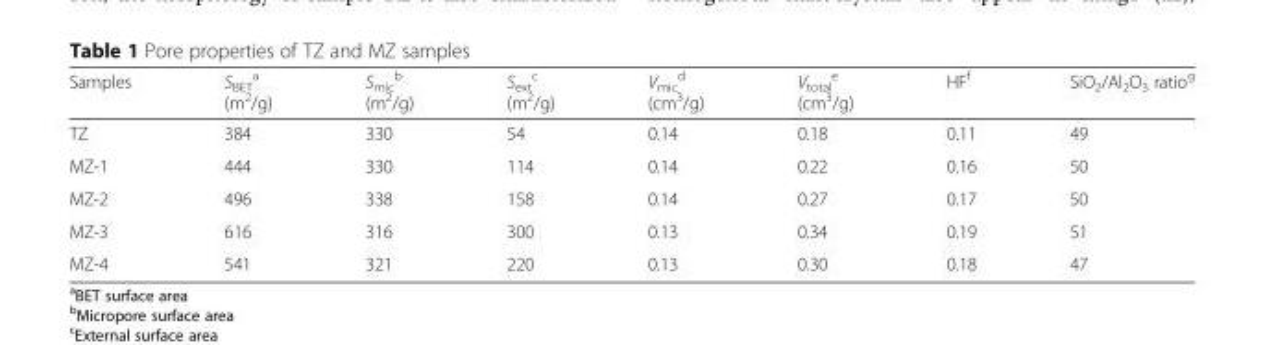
<table><thead><tr><td>Samples</td><td>S<sub>BET</sub> <sup>a</sup> (m<sup>2</sup>/g)</td><td>S<sub>mic</sub> <sup>b</sup> (m<sup>2</sup>/g)</td><td>S<sub>ext</sub> <sup>c</sup> (m<sup>2</sup>/g)</td><td>V<sub>mic</sub> <sup>d</sup> (cm<sup>3</sup>/g)</td><td>V<sub>total</sub> <sup>e</sup> (cm<sup>3</sup>/g)</td><td>HF<sup>f</sup></td><td>SiO<sub>2</sub>/Al<sub>2</sub>O<sub>3</sub> ratio<sup>g</sup></td></tr></thead><tbody><tr><td>TZ</td><td>384</td><td>330</td><td>54</td><td>0.14</td><td>0.18</td><td>0.11</td><td>49</td></tr><tr><td>MZ-1</td><td>444</td><td>330</td><td>114</td><td>0.14</td><td>0.22</td><td>0.16</td><td>50</td></tr><tr><td>MZ-2</td><td>496</td><td>338</td><td>158</td><td>0.14</td><td>0.27</td><td>0.17</td><td>50</td></tr><tr><td>MZ-3</td><td>616</td><td>316</td><td>300</td><td>0.13</td><td>0.34</td><td>0.19</td><td>51</td></tr><tr><td>MZ-4</td><td>541</td><td>321</td><td>220</td><td>0.13</td><td>0.30</td><td>0.18</td><td>47</td></tr></tbody></table>